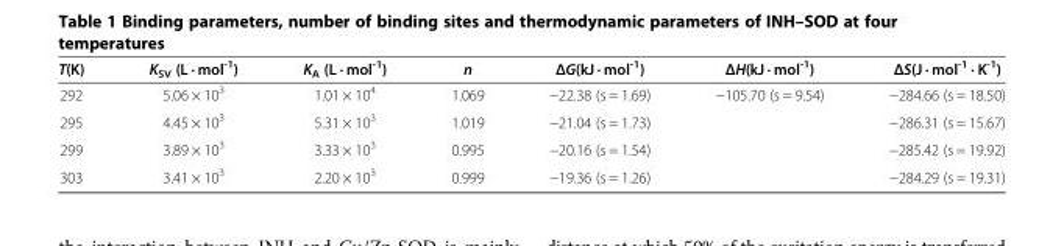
<table><thead><tr><td>T(K)</td><td>K<sub>SV</sub> (L · mol<sup>-1</sup>)</td><td>K<sub>A</sub> (L · mol<sup>-1</sup>)</td><td>n</td><td>ΔG(kJ · mol<sup>-1</sup>)</td><td>ΔH(kJ · mol<sup>-1</sup>)</td><td>ΔS(J · mol<sup>-1</sup> · K<sup>-1</sup>)</td></tr></thead><tbody><tr><td>292</td><td>5.06 × 10<sup>3</sup></td><td>1.01 × 10<sup>4</sup></td><td>1.069</td><td>−22.38 (s = 1.69)</td><td rowspan="4">−105.70 (s = 9.54)</td><td>−284.66 (s = 18.50)</td></tr><tr><td>295</td><td>4.45 × 10<sup>3</sup></td><td>5.31 × 10<sup>3</sup></td><td>1.019</td><td>−21.04 (s = 1.73)</td><td>−286.31 (s = 15.67)</td></tr><tr><td>299</td><td>3.89 × 10<sup>3</sup></td><td>3.33 × 10<sup>3</sup></td><td>0.995</td><td>−20.16 (s = 1.54)</td><td>−285.42 (s = 19.92)</td></tr><tr><td>303</td><td>3.41 × 10<sup>3</sup></td><td>2.20 × 10<sup>3</sup></td><td>0.999</td><td>−19.36 (s = 1.26)</td><td>−284.29 (s = 19.31)</td></tr></tbody></table>